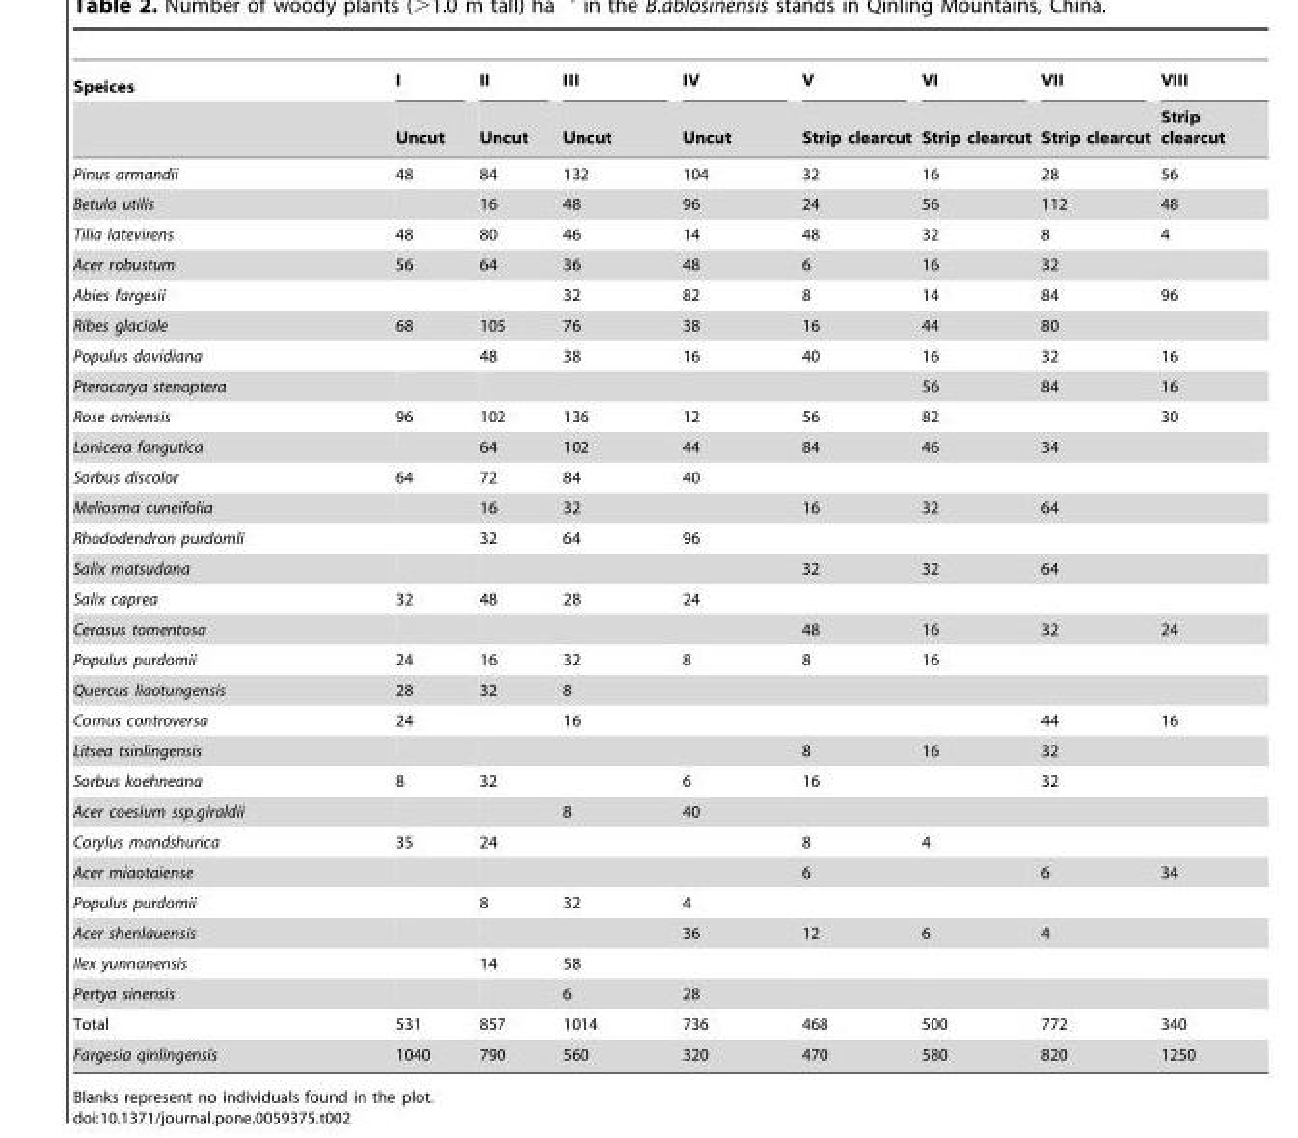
<table><thead><tr><td rowspan="2">Speices</td><td rowspan="2">I Uncut</td><td rowspan="2">II Uncut</td><td rowspan="2">III Uncut</td><td rowspan="2">IV Uncut</td><td rowspan="2">V Strip clearcut</td><td rowspan="2">VI Strip clearcut</td><td rowspan="2">VII Strip clearcut</td><td rowspan="2">VIII Strip clearcut</td></tr><tr></tr></thead><tbody><tr><td>Pinus armandii</td><td>48</td><td>84</td><td>132</td><td>104</td><td>32</td><td>16</td><td>28</td><td>56</td></tr><tr><td>Betula utilis</td><td></td><td>16</td><td>48</td><td>96</td><td>24</td><td>56</td><td>112</td><td>48</td></tr><tr><td>Tilia latevirens</td><td>48</td><td>80</td><td>46</td><td>14</td><td>48</td><td>32</td><td>8</td><td>4</td></tr><tr><td>Acer robustum</td><td>56</td><td>64</td><td>36</td><td>48</td><td>6</td><td>16</td><td>32</td><td></td></tr><tr><td>Abies fargesii</td><td></td><td></td><td>32</td><td>82</td><td>8</td><td>14</td><td>84</td><td>96</td></tr><tr><td>Ribes glaciale</td><td>68</td><td>105</td><td>76</td><td>38</td><td>16</td><td>44</td><td>80</td><td></td></tr><tr><td>Populus davidiana</td><td></td><td>48</td><td>38</td><td>16</td><td>40</td><td>16</td><td>32</td><td>16</td></tr><tr><td>Pterocarya stenoptera</td><td></td><td></td><td></td><td></td><td></td><td>56</td><td>84</td><td>16</td></tr><tr><td>Rose omiensis</td><td>96</td><td>102</td><td>136</td><td>12</td><td>56</td><td>82</td><td></td><td>30</td></tr><tr><td>Lonicera fangutica</td><td></td><td>64</td><td>102</td><td>44</td><td>84</td><td>46</td><td>34</td><td></td></tr><tr><td>Sorbus discolor</td><td>64</td><td>72</td><td>84</td><td>40</td><td></td><td></td><td></td><td></td></tr><tr><td>Meliosma cuneifolia</td><td></td><td>16</td><td>32</td><td></td><td>16</td><td>32</td><td>64</td><td></td></tr><tr><td>Rhododendron purdomli</td><td></td><td>32</td><td>64</td><td>96</td><td></td><td></td><td></td><td></td></tr><tr><td>Salix matsudana</td><td></td><td></td><td></td><td></td><td>32</td><td>32</td><td>64</td><td></td></tr><tr><td>Salix caprea</td><td>32</td><td>48</td><td>28</td><td>24</td><td></td><td></td><td></td><td></td></tr><tr><td>Cerasus tomentosa</td><td></td><td></td><td></td><td></td><td>48</td><td>16</td><td>32</td><td>24</td></tr><tr><td>Populus purdomii</td><td>24</td><td>16</td><td>32</td><td>8</td><td>8</td><td>16</td><td></td><td></td></tr><tr><td>Quercus liaotungensis</td><td>28</td><td>32</td><td>8</td><td></td><td></td><td></td><td></td><td></td></tr><tr><td>Cornus controversa</td><td>24</td><td></td><td>16</td><td></td><td></td><td></td><td>44</td><td>16</td></tr><tr><td>Litsea tsinlingensis</td><td></td><td></td><td></td><td></td><td>8</td><td>16</td><td>32</td><td></td></tr><tr><td>Sorbus koehneana</td><td>8</td><td>32</td><td></td><td>6</td><td>16</td><td></td><td>32</td><td></td></tr><tr><td>Acer coesium ssp.giraldii</td><td></td><td></td><td>8</td><td>40</td><td></td><td></td><td></td><td></td></tr><tr><td>Corylus mandshurica</td><td>35</td><td>24</td><td></td><td></td><td>8</td><td>4</td><td></td><td></td></tr><tr><td>Acer miaotaiense</td><td></td><td></td><td></td><td></td><td>6</td><td></td><td>6</td><td>34</td></tr><tr><td>Populus purdomii</td><td></td><td>8</td><td>32</td><td>4</td><td></td><td></td><td></td><td></td></tr><tr><td>Acer shenlauensis</td><td></td><td></td><td></td><td>36</td><td>12</td><td>6</td><td>4</td><td></td></tr><tr><td>Ilex yunnanensis</td><td></td><td>14</td><td>58</td><td></td><td></td><td></td><td></td><td></td></tr><tr><td>Pertya sinensis</td><td></td><td></td><td>6</td><td>28</td><td></td><td></td><td></td><td></td></tr><tr><td>Total</td><td>531</td><td>857</td><td>1014</td><td>736</td><td>468</td><td>500</td><td>772</td><td>340</td></tr><tr><td>Fargesia qinlingensis</td><td>1040</td><td>790</td><td>560</td><td>320</td><td>470</td><td>580</td><td>820</td><td>1250</td></tr></tbody></table>